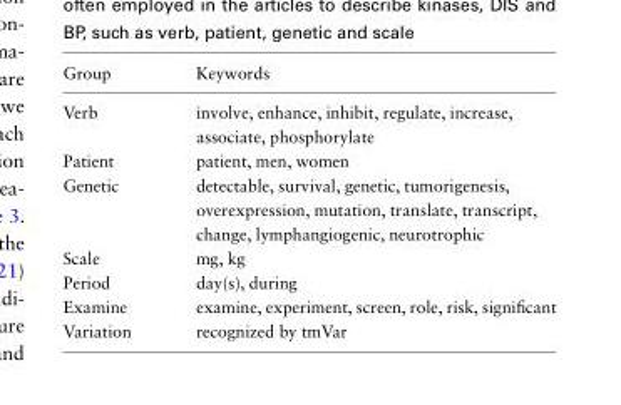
<table><thead><tr><td>Group</td><td>Keywords</td></tr></thead><tbody><tr><td>Verb</td><td>involve, enhance, inhibit, regulate, increase, associate, phosphorylate</td></tr><tr><td>Patient</td><td>patient, men, women</td></tr><tr><td>Genetic</td><td>detectable, survival, genetic, tumorigenesis, overexpression, mutation, translate, transcript, change, lymphangiogenic, neurotrophic</td></tr><tr><td>Scale</td><td>mg, kg</td></tr><tr><td>Period</td><td>day(s), during</td></tr><tr><td>Examine</td><td>examine, experiment, screen, role, risk, significant</td></tr><tr><td>Variation</td><td>recognized by tmVar</td></tr></tbody></table>